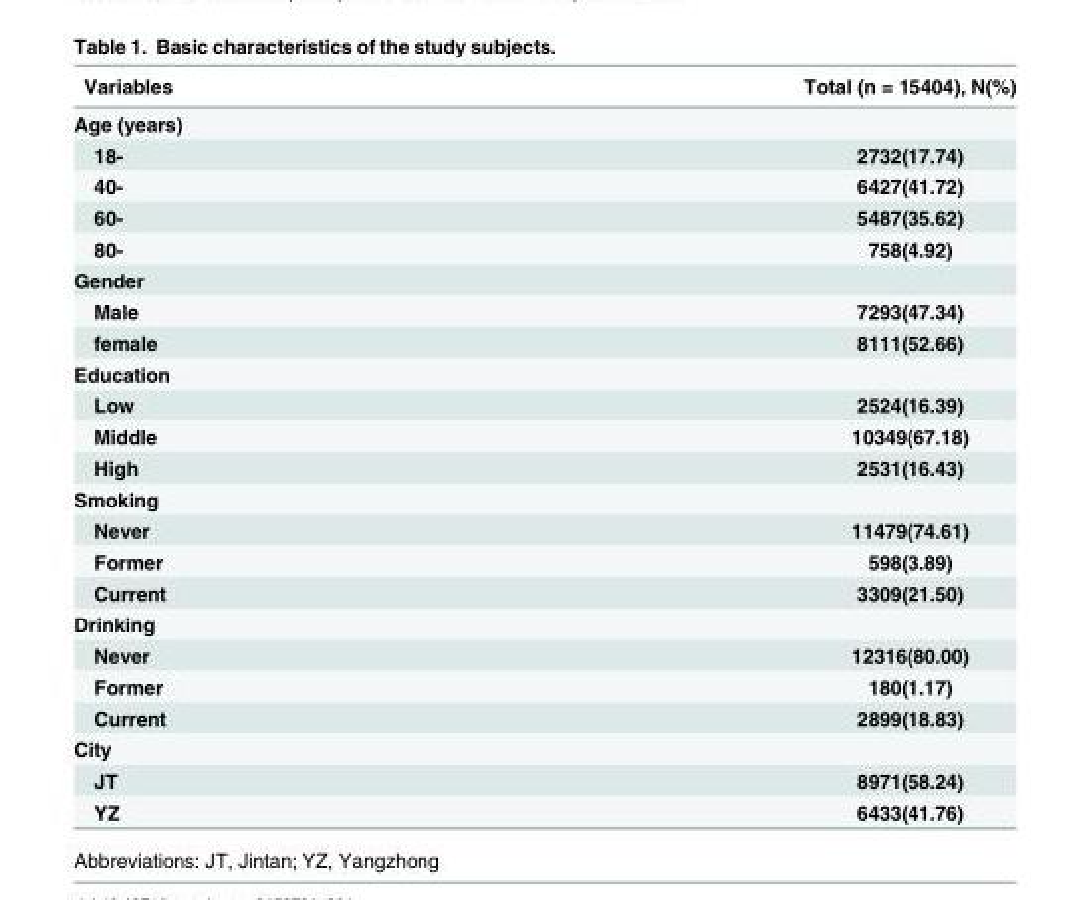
<table><thead><tr><td>Variables</td><td>Total (n = 15404), N(%)</td></tr></thead><tbody><tr><td colspan="2">Age (years)</td></tr><tr><td>18-</td><td>2732(17.74)</td></tr><tr><td>40-</td><td>6427(41.72)</td></tr><tr><td>60-</td><td>5487(35.62)</td></tr><tr><td>80-</td><td>758(4.92)</td></tr><tr><td colspan="2">Gender</td></tr><tr><td>Male</td><td>7293(47.34)</td></tr><tr><td>female</td><td>8111(52.66)</td></tr><tr><td colspan="2">Education</td></tr><tr><td>Low</td><td>2524(16.39)</td></tr><tr><td>Middle</td><td>10349(67.18)</td></tr><tr><td>High</td><td>2531(16.43)</td></tr><tr><td colspan="2">Smoking</td></tr><tr><td>Never</td><td>11479(74.61)</td></tr><tr><td>Former</td><td>598(3.89)</td></tr><tr><td>Current</td><td>3309(21.50)</td></tr><tr><td colspan="2">Drinking</td></tr><tr><td>Never</td><td>12316(80.00)</td></tr><tr><td>Former</td><td>180(1.17)</td></tr><tr><td>Current</td><td>2899(18.83)</td></tr><tr><td colspan="2">City</td></tr><tr><td>JT</td><td>8971(58.24)</td></tr><tr><td>YZ</td><td>6433(41.76)</td></tr></tbody></table>